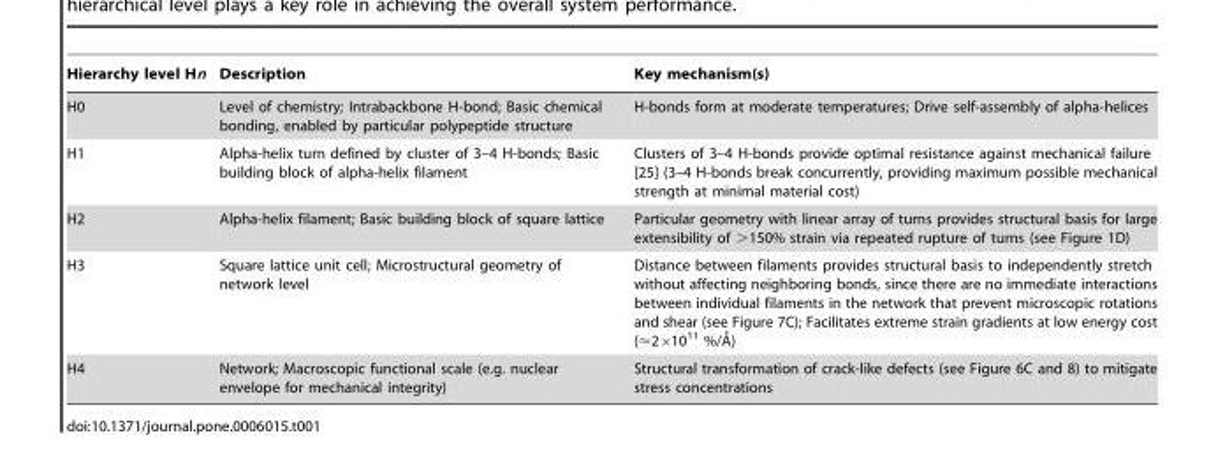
<table><thead><tr><td>Hierarchy level Hn</td><td>Description</td><td>Key mechanism(s)</td></tr></thead><tbody><tr><td>H0</td><td>Level of chemistry; Intrabackbone H-bond; Basic chemical bonding, enabled by particular polypeptide structure</td><td>H-bonds form at moderate temperatures; Drive self-assembly of alpha-helices</td></tr><tr><td>H1</td><td>Alpha-helix turn defined by cluster of 3–4 H-bonds; Basic building block of alpha-helix filament</td><td>Clusters of 3–4 H-bonds provide optimal resistance against mechanical failure [25] (3–4 H-bonds break concurrently, providing maximum possible mechanical strength at minimal material cost)</td></tr><tr><td>H2</td><td>Alpha-helix filament; Basic building block of square lattice</td><td>Particular geometry with linear array of turns provides structural basis for large extensibility of &gt;150% strain via repeated rupture of turns (see Figure 1D)</td></tr><tr><td>H3</td><td>Square lattice unit cell; Microstructural geometry of network level</td><td>Distance between filaments provides structural basis to independently stretch without affecting neighboring bonds, since there are no immediate interactions between individual filaments in the network that prevent microscopic rotations and shear (see Figure 7C); Facilitates extreme strain gradients at low energy cost (&lt;261011 %/A˚)</td></tr><tr><td>H4</td><td>Network; Macroscopic functional scale (e.g. nuclear envelope for mechanical integrity)</td><td>Structural transformation of crack-like defects (see Figure 6C and 8) to mitigate stress concentrations</td></tr></tbody></table>